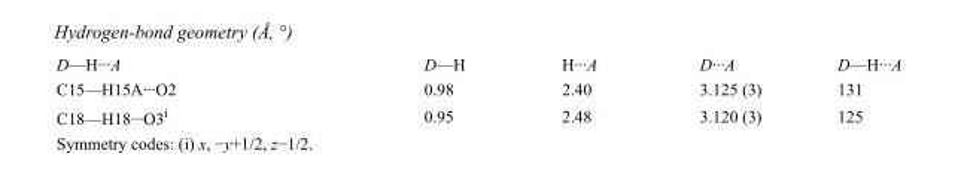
<table><tbody><tr><td>D—H···A</td><td>D—H</td><td>H···A</td><td>D···A</td><td>D—H···A</td></tr><tr><td>C15—H15A···O2</td><td>0.98</td><td>2.40</td><td>3.125 (3)</td><td>131</td></tr><tr><td>C18—H18···O3<sup>i</sup></td><td>0.95</td><td>2.48</td><td>3.120 (3)</td><td>125</td></tr></tbody></table>